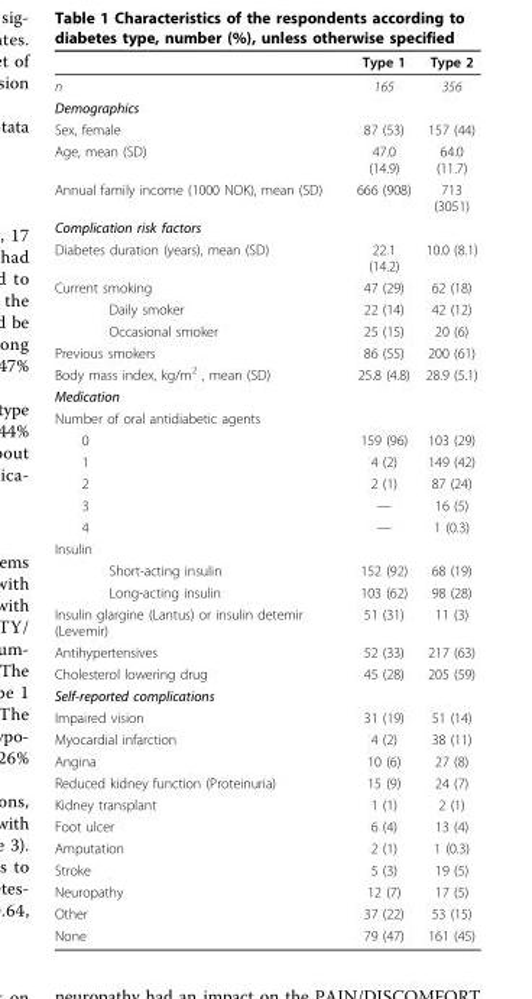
<table><thead><tr><td></td><td>Type 1</td><td>Type 2</td></tr></thead><tbody><tr><td>n</td><td>165</td><td>356</td></tr><tr><td colspan="3">Demographics</td></tr><tr><td>Sex, female</td><td>87 (53)</td><td>157 (44)</td></tr><tr><td>Age, mean (SD)</td><td>47.0 (14.9)</td><td>64.0 (11.7)</td></tr><tr><td>Annual family income (1000 NOK), mean (SD)</td><td>666 (908)</td><td>713 (3051)</td></tr><tr><td colspan="3">Complication risk factors</td></tr><tr><td>Diabetes duration (years), mean (SD)</td><td>22.1 (14.2)</td><td>10.0 (8.1)</td></tr><tr><td>Current smoking</td><td>47 (29)</td><td>62 (18)</td></tr><tr><td>Daily smoker</td><td>22 (14)</td><td>42 (12)</td></tr><tr><td>Occasional smoker</td><td>25 (15)</td><td>20 (6)</td></tr><tr><td>Previous smokers</td><td>86 (55)</td><td>200 (61)</td></tr><tr><td>Body mass index, kg/m<sup>2</sup> , mean (SD)</td><td>25.8 (4.8)</td><td>28.9 (5.1)</td></tr><tr><td colspan="3">Medication</td></tr><tr><td colspan="3">Number of oral antidiabetic agents</td></tr><tr><td>0</td><td>159 (96)</td><td>103 (29)</td></tr><tr><td>1</td><td>4 (2)</td><td>149 (42)</td></tr><tr><td>2</td><td>2 (1)</td><td>87 (24)</td></tr><tr><td>3</td><td>—</td><td>16 (5)</td></tr><tr><td>4</td><td>—</td><td>1 (0.3)</td></tr><tr><td colspan="3">Insulin</td></tr><tr><td>Short-acting insulin</td><td>152 (92)</td><td>68 (19)</td></tr><tr><td>Long-acting insulin</td><td>103 (62)</td><td>98 (28)</td></tr><tr><td>Insulin glargine (Lantus) or insulin detemir (Levemir)</td><td>51 (31)</td><td>11 (3)</td></tr><tr><td>Antihypertensives</td><td>52 (33)</td><td>217 (63)</td></tr><tr><td>Cholesterol lowering drug</td><td>45 (28)</td><td>205 (59)</td></tr><tr><td colspan="3">Self-reported complications</td></tr><tr><td>Impaired vision</td><td>31 (19)</td><td>51 (14)</td></tr><tr><td>Myocardial infarction</td><td>4 (2)</td><td>38 (11)</td></tr><tr><td>Angina</td><td>10 (6)</td><td>27 (8)</td></tr><tr><td>Reduced kidney function (Proteinuria)</td><td>15 (9)</td><td>24 (7)</td></tr><tr><td>Kidney transplant</td><td>1 (1)</td><td>2 (1)</td></tr><tr><td>Foot ulcer</td><td>6 (4)</td><td>13 (4)</td></tr><tr><td>Amputation</td><td>2 (1)</td><td>1 (0.3)</td></tr><tr><td>Stroke</td><td>5 (3)</td><td>19 (5)</td></tr><tr><td>Neuropathy</td><td>12 (7)</td><td>17 (5)</td></tr><tr><td>Other</td><td>37 (22)</td><td>53 (15)</td></tr><tr><td>None</td><td>79 (47)</td><td>161 (45)</td></tr></tbody></table>